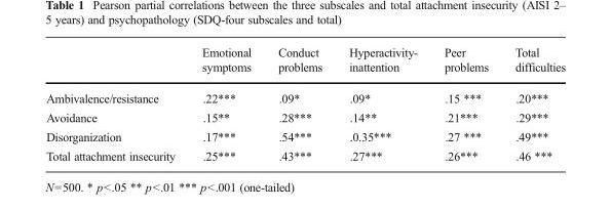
<table><thead><tr><td></td><td>Emotional symptoms</td><td>Conduct problems</td><td>Hyperactivity- inattention</td><td>Peer problems</td><td>Total difficulties</td></tr></thead><tbody><tr><td>Ambivalence/resistance</td><td>.22***</td><td>.09*</td><td>.09*</td><td>.15 ***</td><td>.20***</td></tr><tr><td>Avoidance</td><td>.15**</td><td>.28***</td><td>.14**</td><td>.21***</td><td>.29***</td></tr><tr><td>Disorganization</td><td>.17***</td><td>.54***</td><td>.0.35***</td><td>.27 ***</td><td>.49***</td></tr><tr><td>Total attachment insecurity</td><td>.25***</td><td>.43***</td><td>.27***</td><td>.26***</td><td>.46 ***</td></tr></tbody></table>